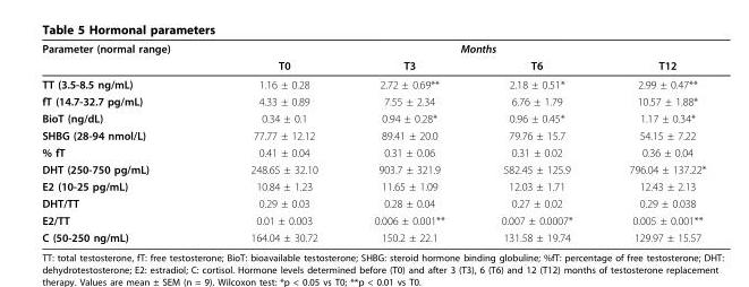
<table><thead><tr><td rowspan="2">Parameter (normal range)</td><td colspan="4">Months</td></tr><tr><td>T0</td><td>T3</td><td>T6</td><td>T12</td></tr></thead><tbody><tr><td>TT (3.5-8.5 ng/mL)</td><td>1.16 ± 0.28</td><td>2.72 ± 0.69**</td><td>2.18 ± 0.51*</td><td>2.99 ± 0.47**</td></tr><tr><td>fT (14.7-32.7 pg/mL)</td><td>4.33 ± 0.89</td><td>7.55 ± 2.34</td><td>6.76 ± 1.79</td><td>10.57 ± 1.88*</td></tr><tr><td>BioT (ng/dL)</td><td>0.34 ± 0.1</td><td>0.94 ± 0.28*</td><td>0.96 ± 0.45*</td><td>1.17 ± 0.34*</td></tr><tr><td>SHBG (28-94 nmol/L)</td><td>77.77 ± 12.12</td><td>89.41 ± 20.0</td><td>79.76 ± 15.7</td><td>54.15 ± 7.22</td></tr><tr><td>% fT</td><td>0.41 ± 0.04</td><td>0.31 ± 0.06</td><td>0.31 ± 0.02</td><td>0.36 ± 0.04</td></tr><tr><td>DHT (250-750 pg/mL)</td><td>248.65 ± 32.10</td><td>903.7 ± 321.9</td><td>582.45 ± 125.9</td><td>796.04 ± 137.22*</td></tr><tr><td>E2 (10-25 pg/mL)</td><td>10.84 ± 1.23</td><td>11.65 ± 1.09</td><td>12.03 ± 1.71</td><td>12.43 ± 2.13</td></tr><tr><td>DHT/TT</td><td>0.29 ± 0.03</td><td>0.28 ± 0.04</td><td>0.27 ± 0.02</td><td>0.29 ± 0.038</td></tr><tr><td>E2/TT</td><td>0.01 ± 0.003</td><td>0.006 ± 0.001**</td><td>0.007 ± 0.0007*</td><td>0.005 ± 0.001**</td></tr><tr><td>C (50-250 ng/mL)</td><td>164.04 ± 30.72</td><td>150.2 ± 22.1</td><td>131.58 ± 19.74</td><td>129.97 ± 15.57</td></tr></tbody></table>